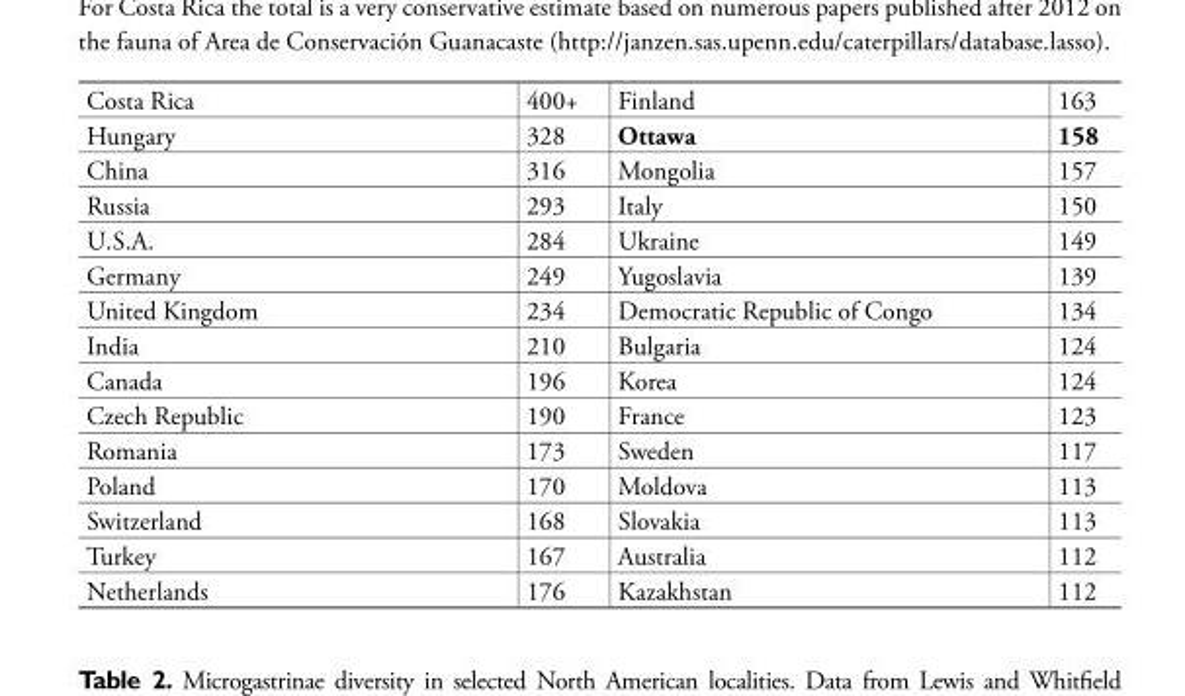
<table><tbody><tr><td>Costa Rica</td><td>400+</td><td>Finland</td><td>163</td></tr><tr><td>Hungary</td><td>328</td><td>Ottawa</td><td>158</td></tr><tr><td>China</td><td>316</td><td>Mongolia</td><td>157</td></tr><tr><td>Russia</td><td>293</td><td>Italy</td><td>150</td></tr><tr><td>U.S.A.</td><td>284</td><td>Ukraine</td><td>149</td></tr><tr><td>Germany</td><td>249</td><td>Yugoslavia</td><td>139</td></tr><tr><td>United Kingdom</td><td>234</td><td>Democratic Republic of Congo</td><td>134</td></tr><tr><td>India</td><td>210</td><td>Bulgaria</td><td>124</td></tr><tr><td>Canada</td><td>196</td><td>Korea</td><td>124</td></tr><tr><td>Czech Republic</td><td>190</td><td>France</td><td>123</td></tr><tr><td>Romania</td><td>173</td><td>Sweden</td><td>117</td></tr><tr><td>Poland</td><td>170</td><td>Moldova</td><td>113</td></tr><tr><td>Switzerland</td><td>168</td><td>Slovakia</td><td>113</td></tr><tr><td>Turkey</td><td>167</td><td>Australia</td><td>112</td></tr><tr><td>Netherlands</td><td>176</td><td>Kazakhstan</td><td>112</td></tr></tbody></table>